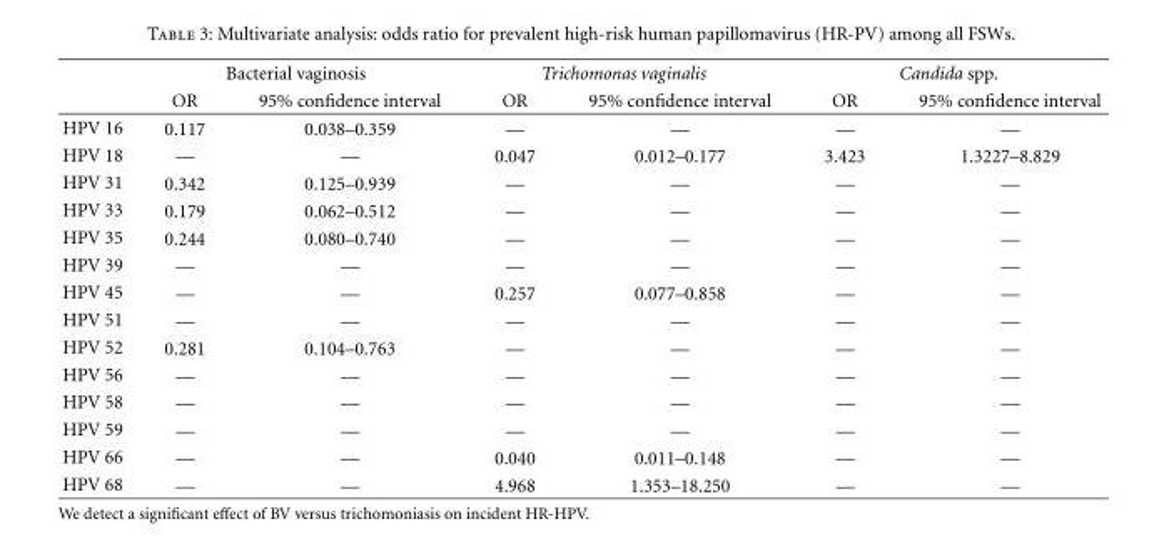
<table><thead><tr><td rowspan="2"></td><td colspan="2">Bacterial vaginosis</td><td colspan="2">Trichomonas vaginalis</td><td colspan="2">Candida spp.</td></tr><tr><td>OR</td><td>95% confidence interval</td><td>OR</td><td>95% confidence interval</td><td>OR</td><td>95% confidence interval</td></tr></thead><tbody><tr><td>HPV 16</td><td>0.117</td><td>0.038–0.359</td><td>—</td><td>—</td><td>—</td><td>—</td></tr><tr><td>HPV 18</td><td>—</td><td>—</td><td>0.047</td><td>0.012–0.177</td><td>3.423</td><td>1.3227–8.829</td></tr><tr><td>HPV 31</td><td>0.342</td><td>0.125–0.939</td><td>—</td><td>—</td><td>—</td><td>—</td></tr><tr><td>HPV 33</td><td>0.179</td><td>0.062–0.512</td><td>—</td><td>—</td><td>—</td><td>—</td></tr><tr><td>HPV 35</td><td>0.244</td><td>0.080–0.740</td><td>—</td><td>—</td><td>—</td><td>—</td></tr><tr><td>HPV 39</td><td>—</td><td>—</td><td>—</td><td>—</td><td>—</td><td>—</td></tr><tr><td>HPV 45</td><td>—</td><td>—</td><td>0.257</td><td>0.077–0.858</td><td>—</td><td>—</td></tr><tr><td>HPV 51</td><td>—</td><td>—</td><td>—</td><td>—</td><td>—</td><td>—</td></tr><tr><td>HPV 52</td><td>0.281</td><td>0.104–0.763</td><td>—</td><td>—</td><td>—</td><td>—</td></tr><tr><td>HPV 56</td><td>—</td><td>—</td><td>—</td><td>—</td><td>—</td><td>—</td></tr><tr><td>HPV 58</td><td>—</td><td>—</td><td>—</td><td>—</td><td>—</td><td>—</td></tr><tr><td>HPV 59</td><td>—</td><td>—</td><td>—</td><td>—</td><td>—</td><td>—</td></tr><tr><td>HPV 66</td><td>—</td><td>—</td><td>0.040</td><td>0.011–0.148</td><td>—</td><td>—</td></tr><tr><td>HPV 68</td><td>—</td><td>—</td><td>4.968</td><td>1.353–18.250</td><td>—</td><td>—</td></tr></tbody></table>